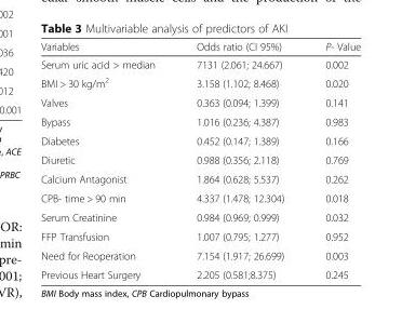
<table><thead><tr><td>Variables</td><td>Odds ratio (CI 95%)</td><td>P- Value</td></tr></thead><tbody><tr><td>Serum uric acid &gt; median</td><td>7131 (2.061; 24.667)</td><td>0.002</td></tr><tr><td>BMI &gt; 30 kg/m<sup>2</sup></td><td>3.158 (1.102; 8.468)</td><td>0.020</td></tr><tr><td>Valves</td><td>0.363 (0.094; 1.399)</td><td>0.141</td></tr><tr><td>Bypass</td><td>1.016 (0.236; 4.387)</td><td>0.983</td></tr><tr><td>Diabetes</td><td>0.452 (0.147; 1.389)</td><td>0.166</td></tr><tr><td>Diuretic</td><td>0.988 (0.356; 2.118)</td><td>0.769</td></tr><tr><td>Calcium Antagonist</td><td>1.864 (0.628; 5.537)</td><td>0.262</td></tr><tr><td>CPB- time &gt; 90 min</td><td>4.337 (1.478; 12.304)</td><td>0.018</td></tr><tr><td>Serum Creatinine</td><td>0.984 (0.969; 0.999)</td><td>0.032</td></tr><tr><td>FFP Transfusion</td><td>1.007 (0.795; 1.277)</td><td>0.952</td></tr><tr><td>Need for Reoperation</td><td>7.154 (1.917; 26.699)</td><td>0.003</td></tr><tr><td>Previous Heart Surgery</td><td>2.205 (0.581;8.375)</td><td>0.245</td></tr></tbody></table>